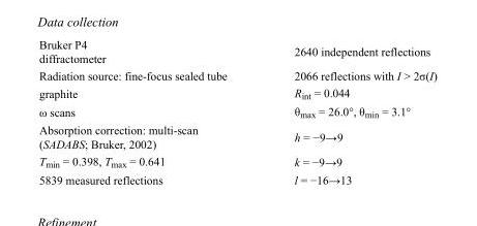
<table><tbody><tr><td>Bruker P4 diffractometer</td><td>2640 independent reflections</td></tr><tr><td>Radiation source: fine-focus sealed tube</td><td>2066 reflections with I &gt; 2σ(I)</td></tr><tr><td>graphite</td><td>R<sub>int</sub> = 0.044</td></tr><tr><td>ω scans</td><td>θ<sub>max</sub> = 26.0°, θ<sub>min</sub> = 3.1°</td></tr><tr><td>Absorption correction: multi-scan (SADABS; Bruker, 2002)</td><td>h = −9→9</td></tr><tr><td>T<sub>min</sub> = 0.398, T<sub>max</sub> = 0.641</td><td>k = −9→9</td></tr><tr><td>5839 measured reflections</td><td>l = −16→13</td></tr></tbody></table>